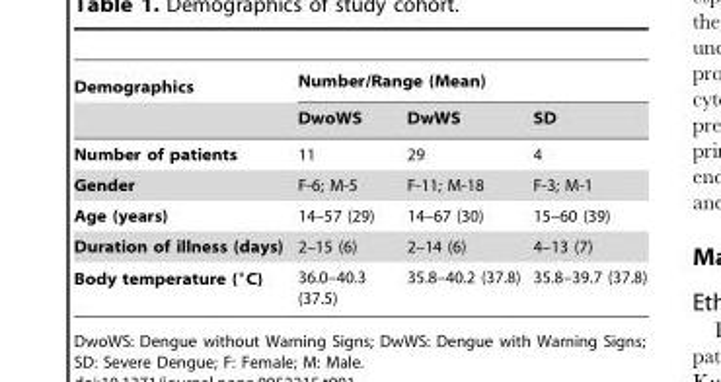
<table><thead><tr><td rowspan="2">Demographics</td><td colspan="3">Number/Range (Mean)</td></tr><tr><td>DwoWS</td><td>DwWS</td><td>SD</td></tr></thead><tbody><tr><td>Number of patients</td><td>11</td><td>29</td><td>4</td></tr><tr><td>Gender</td><td>F-6; M-5</td><td>F-11; M-18</td><td>F-3; M-1</td></tr><tr><td>Age (years)</td><td>14–57 (29)</td><td>14–67 (30)</td><td>15–60 (39)</td></tr><tr><td>Duration of illness (days)</td><td>2–15 (6)</td><td>2–14 (6)</td><td>4–13 (7)</td></tr><tr><td>Body temperature (°C)</td><td>36.0–40.3 (37.5)</td><td>35.8–40.2 (37.8)</td><td>35.8–39.7 (37.8)</td></tr></tbody></table>